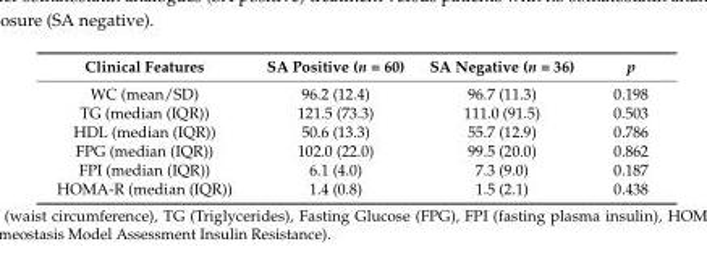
<table><thead><tr><td>Clinical Features</td><td>SA Positive (n = 60)</td><td>SA Negative (n = 36)</td><td>p</td></tr></thead><tbody><tr><td>WC (mean/SD)</td><td>96.2 (12.4)</td><td>96.7 (11.3)</td><td>0.198</td></tr><tr><td>TG (median (IQR))</td><td>121.5 (73.3)</td><td>111.0 (91.5)</td><td>0.503</td></tr><tr><td>HDL (median (IQR))</td><td>50.6 (13.3)</td><td>55.7 (12.9)</td><td>0.786</td></tr><tr><td>FPG (median (IQR))</td><td>102.0 (22.0)</td><td>99.5 (20.0)</td><td>0.862</td></tr><tr><td>FPI (median (IQR))</td><td>6.1 (4.0)</td><td>7.3 (9.0)</td><td>0.187</td></tr><tr><td>HOMA-R (median (IQR))</td><td>1.4 (0.8)</td><td>1.5 (2.1)</td><td>0.438</td></tr></tbody></table>